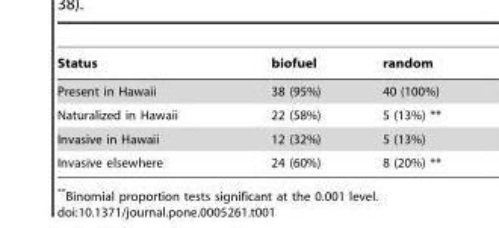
<table><thead><tr><td>Status</td><td>biofuel</td><td>random</td></tr></thead><tbody><tr><td>Present in Hawaii</td><td>38 (95%)</td><td>40 (100%)</td></tr><tr><td>Naturalized in Hawaii</td><td>22 (58%)</td><td>5 (13%) **</td></tr><tr><td>Invasive in Hawaii</td><td>12 (32%)</td><td>5 (13%)</td></tr><tr><td>Invasive elsewhere</td><td>24 (60%)</td><td>8 (20%) **</td></tr></tbody></table>